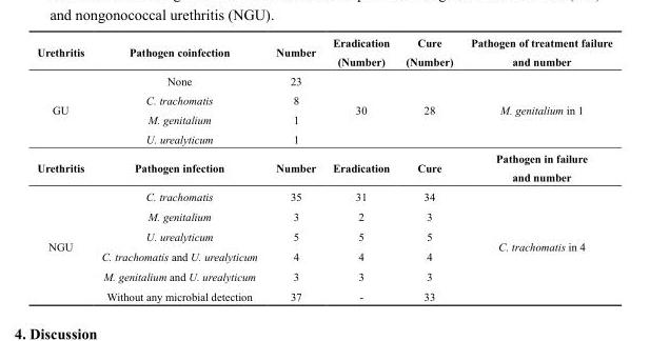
<table><tbody><tr><td>Urethritis</td><td>Pathogen coinfection</td><td>Number</td><td>Eradication (Number)</td><td>Cure (Number)</td><td>Pathogen of treatment failure and number</td></tr><tr><td rowspan="4">GU</td><td>None</td><td>23</td><td rowspan="4">30</td><td rowspan="4">28</td><td rowspan="4">M. genitalium in 1</td></tr><tr><td>C. trachomatis</td><td>8</td></tr><tr><td>M. genitalium</td><td>1</td></tr><tr><td>U. urealyticum</td><td>1</td></tr><tr><td>Urethritis</td><td>Pathogen infection</td><td>Number</td><td>Eradication</td><td>Cure</td><td>Pathogen in failure and number</td></tr><tr><td rowspan="6">NGU</td><td>C. trachomatis</td><td>35</td><td>31</td><td>34</td><td rowspan="6">C. trachomatis in 4</td></tr><tr><td>M. genitalium</td><td>3</td><td>2</td><td>3</td></tr><tr><td>U. urealyticum</td><td>5</td><td>5</td><td>5</td></tr><tr><td>C. trachomatis and U. urealyticum</td><td>4</td><td>4</td><td>4</td></tr><tr><td>M. genitalium and U. urealyticum</td><td>3</td><td>3</td><td>3</td></tr><tr><td>Without any microbial detection</td><td>37</td><td>-</td><td>33</td></tr></tbody></table>